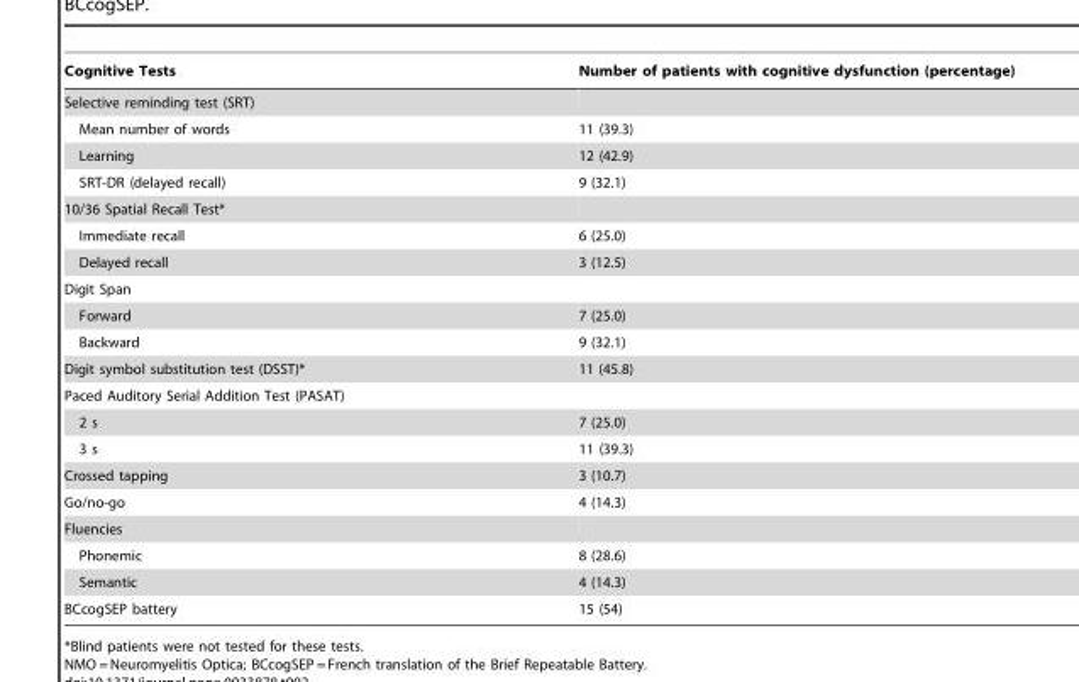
<table><thead><tr><td>Cognitive Tests</td><td>Number of patients with cognitive dysfunction (percentage)</td></tr></thead><tbody><tr><td colspan="2">Selective reminding test (SRT)</td></tr><tr><td>Mean number of words</td><td>11 (39.3)</td></tr><tr><td>Learning</td><td>12 (42.9)</td></tr><tr><td>SRT-DR (delayed recall)</td><td>9 (32.1)</td></tr><tr><td colspan="2">10/36 Spatial Recall Test*</td></tr><tr><td>Immediate recall</td><td>6 (25.0)</td></tr><tr><td>Delayed recall</td><td>3 (12.5)</td></tr><tr><td colspan="2">Digit Span</td></tr><tr><td>Forward</td><td>7 (25.0)</td></tr><tr><td>Backward</td><td>9 (32.1)</td></tr><tr><td>Digit symbol substitution test (DSST)*</td><td>11 (45.8)</td></tr><tr><td colspan="2">Paced Auditory Serial Addition Test (PASAT)</td></tr><tr><td>2 s</td><td>7 (25.0)</td></tr><tr><td>3 s</td><td>11 (39.3)</td></tr><tr><td>Crossed tapping</td><td>3 (10.7)</td></tr><tr><td>Go/no-go</td><td>4 (14.3)</td></tr><tr><td colspan="2">Fluencies</td></tr><tr><td>Phonemic</td><td>8 (28.6)</td></tr><tr><td>Semantic</td><td>4 (14.3)</td></tr><tr><td>BCcogSEP battery</td><td>15 (54)</td></tr></tbody></table>